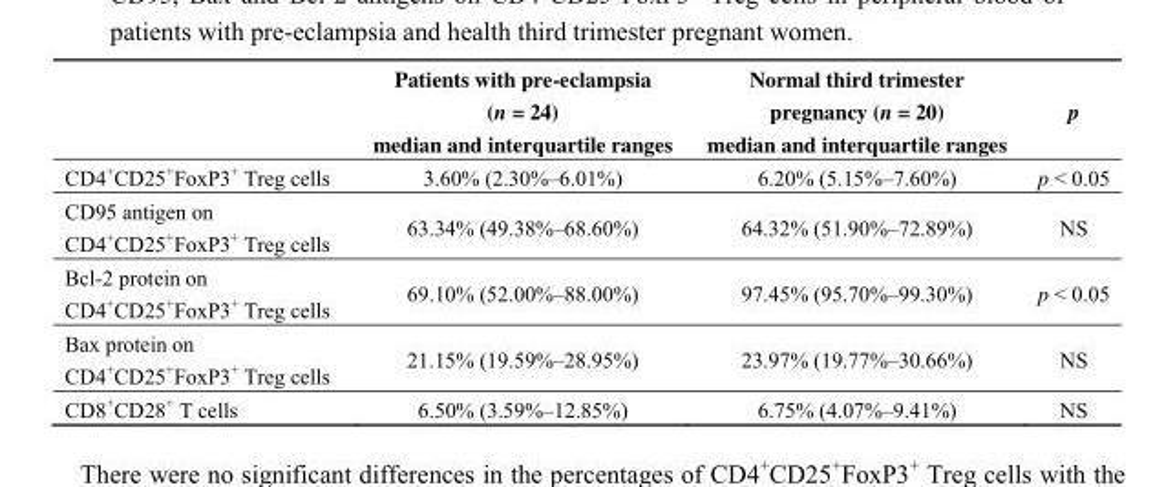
<table><thead><tr><td></td><td>Patients with pre-eclampsia (n = 24) median and interquartile ranges</td><td>Normal third trimester pregnancy (n = 20) median and interquartile ranges</td><td>p</td></tr></thead><tbody><tr><td>CD4<sup>+</sup>CD25<sup>+</sup>FoxP3<sup>+</sup> Treg cells</td><td>3.60% (2.30%–6.01%)</td><td>6.20% (5.15%–7.60%)</td><td>p &lt; 0.05</td></tr><tr><td>CD95 antigen on CD4<sup>+</sup>CD25<sup>+</sup>FoxP3<sup>+</sup> Treg cells</td><td>63.34% (49.38%–68.60%)</td><td>64.32% (51.90%–72.89%)</td><td>NS</td></tr><tr><td>Bcl-2 protein on CD4<sup>+</sup>CD25<sup>+</sup>FoxP3<sup>+</sup> Treg cells</td><td>69.10% (52.00%–88.00%)</td><td>97.45% (95.70%–99.30%)</td><td>p &lt; 0.05</td></tr><tr><td>Bax protein on CD4<sup>+</sup>CD25<sup>+</sup>FoxP3<sup>+</sup> Treg cells</td><td>21.15% (19.59%–28.95%)</td><td>23.97% (19.77%–30.66%)</td><td>NS</td></tr><tr><td>CD8<sup>+</sup>CD28<sup>+</sup> T cells</td><td>6.50% (3.59%–12.85%)</td><td>6.75% (4.07%–9.41%)</td><td>NS</td></tr></tbody></table>